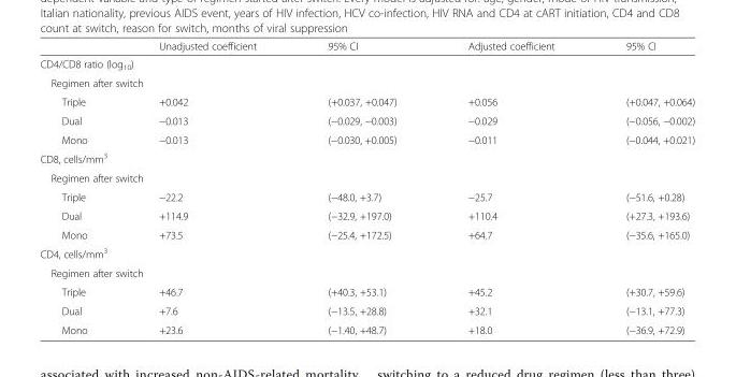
<table><thead><tr><td></td><td>Unadjusted coefficient</td><td>95% CI</td><td>Adjusted coefficient</td><td>95% CI</td></tr></thead><tbody><tr><td colspan="5">CD4/CD8 ratio (log<sub>10</sub>)</td></tr><tr><td colspan="5">Regimen after switch</td></tr><tr><td>Triple</td><td>+0.042</td><td>(+0.037, +0.047)</td><td>+0.056</td><td>(+0.047, +0.064)</td></tr><tr><td>Dual</td><td>−0.013</td><td>(−0.029, −0.003)</td><td>−0.029</td><td>(−0.056, −0.002)</td></tr><tr><td>Mono</td><td>−0.013</td><td>(−0.030, +0.005)</td><td>−0.011</td><td>(−0.044, +0.021)</td></tr><tr><td colspan="5">CD8, cells/mm<sup>3</sup></td></tr><tr><td colspan="5">Regimen after switch</td></tr><tr><td>Triple</td><td>−22.2</td><td>(−48.0, +3.7)</td><td>−25.7</td><td>(−51.6, +0.28)</td></tr><tr><td>Dual</td><td>+114.9</td><td>(−32.9, +197.0)</td><td>+110.4</td><td>(+27.3, +193.6)</td></tr><tr><td>Mono</td><td>+73.5</td><td>(−25.4, +172.5)</td><td>+64.7</td><td>(−35.6, +165.0)</td></tr><tr><td colspan="5">CD4, cells/mm<sup>3</sup></td></tr><tr><td colspan="5">Regimen after switch</td></tr><tr><td>Triple</td><td>+46.7</td><td>(+40.3, +53.1)</td><td>+45.2</td><td>(+30.7, +59.6)</td></tr><tr><td>Dual</td><td>+7.6</td><td>(−13.5, +28.8)</td><td>+32.1</td><td>(−13.1, +77.3)</td></tr><tr><td>Mono</td><td>+23.6</td><td>(−1.40, +48.7)</td><td>+18.0</td><td>(−36.9, +72.9)</td></tr></tbody></table>